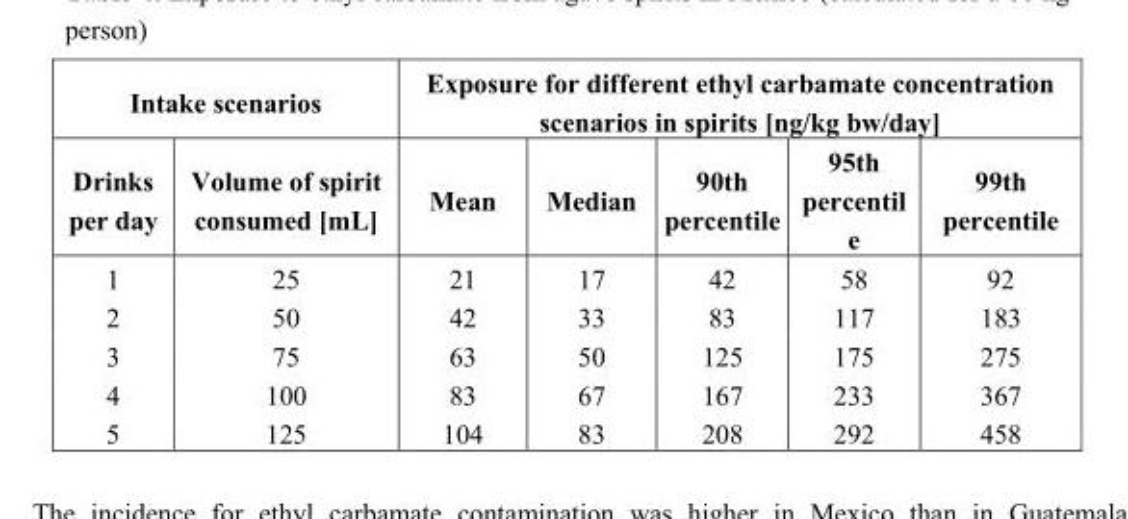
<table><thead><tr><td colspan="2">Intake scenarios</td><td colspan="5">Exposure for different ethyl carbamate concentration scenarios in spirits [ng/kg bw/day]</td></tr><tr><td>Drinks per day</td><td>Volume of spirit consumed [mL]</td><td>Mean</td><td>Median</td><td>90th percentile</td><td>95th percentil e</td><td>99th percentile</td></tr></thead><tbody><tr><td>1</td><td>25</td><td>21</td><td>17</td><td>42</td><td>58</td><td>92</td></tr><tr><td>2</td><td>50</td><td>42</td><td>33</td><td>83</td><td>117</td><td>183</td></tr><tr><td>3</td><td>75</td><td>63</td><td>50</td><td>125</td><td>175</td><td>275</td></tr><tr><td>4</td><td>100</td><td>83</td><td>67</td><td>167</td><td>233</td><td>367</td></tr><tr><td>5</td><td>125</td><td>104</td><td>83</td><td>208</td><td>292</td><td>458</td></tr></tbody></table>